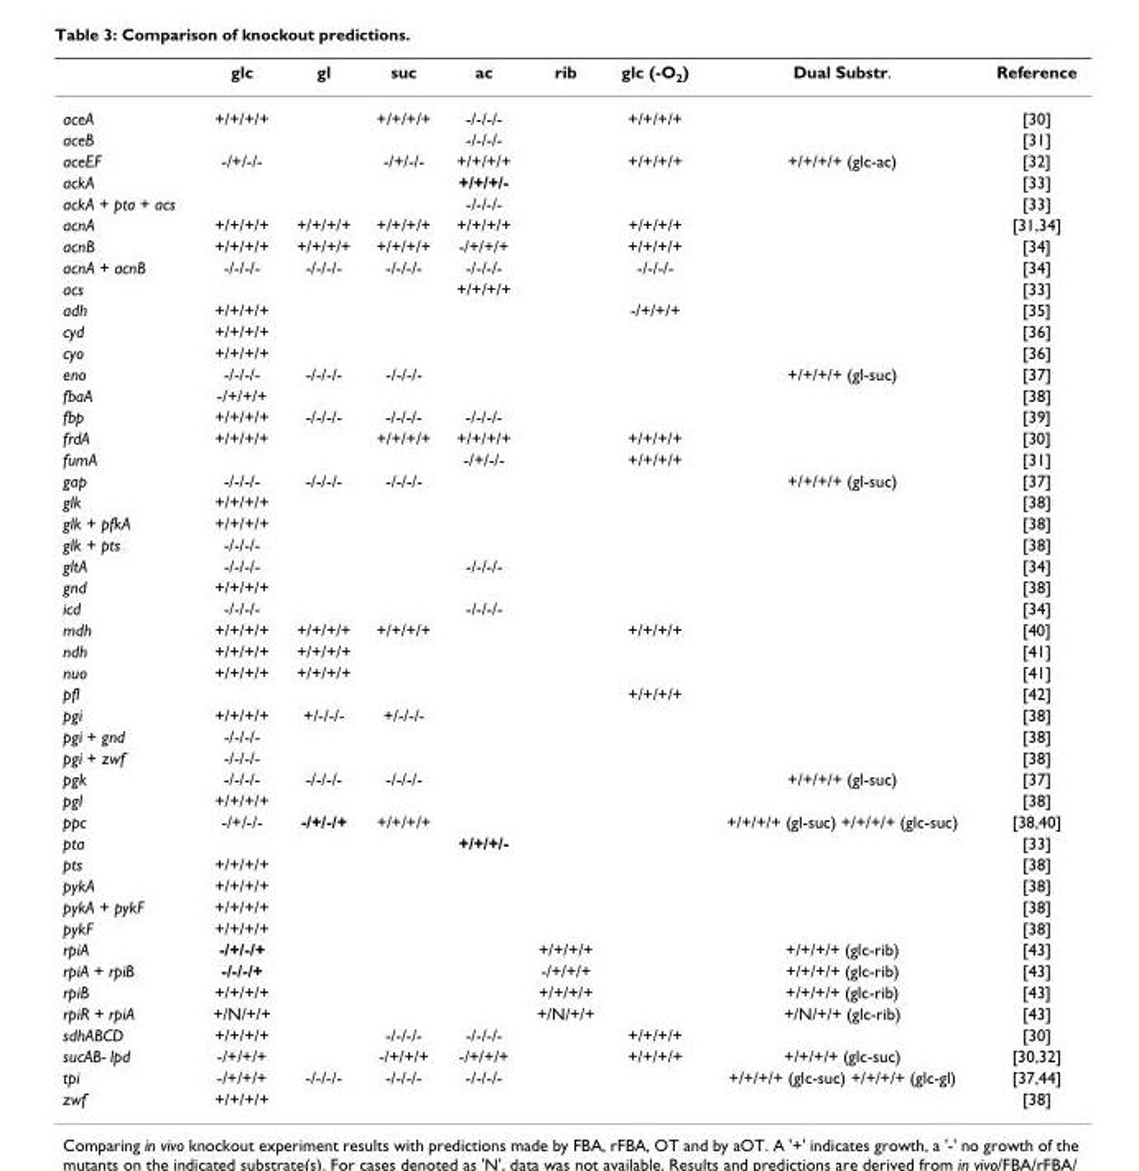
<table><thead><tr><td></td><td>glc</td><td>gl</td><td>suc</td><td>ac</td><td>rib</td><td>glc (-O<sub>2</sub>)</td><td>Dual Substr.</td><td>Reference</td></tr></thead><tbody><tr><td>aceA</td><td>+/+/+/+</td><td></td><td>+/+/+/+</td><td>-/-/-/-</td><td></td><td>+/+/+/+</td><td></td><td>[30]</td></tr><tr><td>aceB</td><td></td><td></td><td></td><td>-/-/-/-</td><td></td><td></td><td></td><td>[31]</td></tr><tr><td>aceEF</td><td>-/+/-/-</td><td></td><td>-/+/-/-</td><td>+/+/+/+</td><td></td><td>+/+/+/+</td><td>+/+/+/+ (glc-ac)</td><td>[32]</td></tr><tr><td>ackA</td><td></td><td></td><td></td><td>+/+/+/-</td><td></td><td></td><td></td><td>[33]</td></tr><tr><td>ackA + pta + acs</td><td></td><td></td><td></td><td>-/-/-/-</td><td></td><td></td><td></td><td>[33]</td></tr><tr><td>acnA</td><td>+/+/+/+</td><td>+/+/+/+</td><td>+/+/+/+</td><td>+/+/+/+</td><td></td><td>+/+/+/+</td><td></td><td>[31,34]</td></tr><tr><td>acnB</td><td>+/+/+/+</td><td>+/+/+/+</td><td>+/+/+/+</td><td>-/+/+/+</td><td></td><td>+/+/+/+</td><td></td><td>[34]</td></tr><tr><td>acnA + acnB</td><td>-/-/-/-</td><td>-/-/-/-</td><td>-/-/-/-</td><td>-/-/-/-</td><td></td><td>-/-/-/-</td><td></td><td>[34]</td></tr><tr><td>acs</td><td></td><td></td><td></td><td>+/+/+/+</td><td></td><td></td><td></td><td>[33]</td></tr><tr><td>adh</td><td>+/+/+/+</td><td></td><td></td><td></td><td></td><td>-/+/+/+</td><td></td><td>[35]</td></tr><tr><td>cyd</td><td>+/+/+/+</td><td></td><td></td><td></td><td></td><td></td><td></td><td>[36]</td></tr><tr><td>cyo</td><td>+/+/+/+</td><td></td><td></td><td></td><td></td><td></td><td></td><td>[36]</td></tr><tr><td>eno</td><td>-/-/-/-</td><td>-/-/-/-</td><td>-/-/-/-</td><td></td><td></td><td></td><td>+/+/+/+ (gl-suc)</td><td>[37]</td></tr><tr><td>fbaA</td><td>-/+/+/+</td><td></td><td></td><td></td><td></td><td></td><td></td><td>[38]</td></tr><tr><td>fbp</td><td>+/+/+/+</td><td>-/-/-/-</td><td>-/-/-/-</td><td>-/-/-/-</td><td></td><td></td><td></td><td>[39]</td></tr><tr><td>frdA</td><td>+/+/+/+</td><td></td><td>+/+/+/+</td><td>+/+/+/+</td><td></td><td>+/+/+/+</td><td></td><td>[30]</td></tr><tr><td>fumA</td><td></td><td></td><td></td><td>-/+/-/-</td><td></td><td>+/+/+/+</td><td></td><td>[31]</td></tr><tr><td>gap</td><td>-/-/-/-</td><td>-/-/-/-</td><td>-/-/-/-</td><td></td><td></td><td></td><td>+/+/+/+ (gl-suc)</td><td>[37]</td></tr><tr><td>glk</td><td>+/+/+/+</td><td></td><td></td><td></td><td></td><td></td><td></td><td>[38]</td></tr><tr><td>glk + pfkA</td><td>+/+/+/+</td><td></td><td></td><td></td><td></td><td></td><td></td><td>[38]</td></tr><tr><td>glk + pts</td><td>-/-/-/-</td><td></td><td></td><td></td><td></td><td></td><td></td><td>[38]</td></tr><tr><td>gltA</td><td>-/-/-/-</td><td></td><td></td><td>-/-/-/-</td><td></td><td></td><td></td><td>[34]</td></tr><tr><td>gnd</td><td>+/+/+/+</td><td></td><td></td><td></td><td></td><td></td><td></td><td>[38]</td></tr><tr><td>icd</td><td>-/-/-/-</td><td></td><td></td><td>-/-/-/-</td><td></td><td></td><td></td><td>[34]</td></tr><tr><td>mdh</td><td>+/+/+/+</td><td>+/+/+/+</td><td>+/+/+/+</td><td></td><td></td><td>+/+/+/+</td><td></td><td>[40]</td></tr><tr><td>ndh</td><td>+/+/+/+</td><td>+/+/+/+</td><td></td><td></td><td></td><td></td><td></td><td>[41]</td></tr><tr><td>nuo</td><td>+/+/+/+</td><td>+/+/+/+</td><td></td><td></td><td></td><td></td><td></td><td>[41]</td></tr><tr><td>pfl</td><td></td><td></td><td></td><td></td><td></td><td>+/+/+/+</td><td></td><td>[42]</td></tr><tr><td>pgi</td><td>+/+/+/+</td><td>+/-/-/-</td><td>+/-/-/-</td><td></td><td></td><td></td><td></td><td>[38]</td></tr><tr><td>pgi + gnd</td><td>-/-/-/-</td><td></td><td></td><td></td><td></td><td></td><td></td><td>[38]</td></tr><tr><td>pgi + zwf</td><td>-/-/-/-</td><td></td><td></td><td></td><td></td><td></td><td></td><td>[38]</td></tr><tr><td>pgk</td><td>-/-/-/-</td><td>-/-/-/-</td><td>-/-/-/-</td><td></td><td></td><td></td><td>+/+/+/+ (gl-suc)</td><td>[37]</td></tr><tr><td>pgl</td><td>+/+/+/+</td><td></td><td></td><td></td><td></td><td></td><td></td><td>[38]</td></tr><tr><td>ppc</td><td>-/+/-/-</td><td>-/+/-/+</td><td>+/+/+/+</td><td></td><td></td><td></td><td>+/+/+/+ (gl-suc) +/+/+/+ (glc-suc)</td><td>[38,40]</td></tr><tr><td>pta</td><td></td><td></td><td></td><td>+/+/+/-</td><td></td><td></td><td></td><td>[33]</td></tr><tr><td>pts</td><td>+/+/+/+</td><td></td><td></td><td></td><td></td><td></td><td></td><td>[38]</td></tr><tr><td>pykA</td><td>+/+/+/+</td><td></td><td></td><td></td><td></td><td></td><td></td><td>[38]</td></tr><tr><td>pykA + pykF</td><td>+/+/+/+</td><td></td><td></td><td></td><td></td><td></td><td></td><td>[38]</td></tr><tr><td>pykF</td><td>+/+/+/+</td><td></td><td></td><td></td><td></td><td></td><td></td><td>[38]</td></tr><tr><td>rpiA</td><td>-/+/-/+</td><td></td><td></td><td></td><td>+/+/+/+</td><td></td><td>+/+/+/+ (glc-rib)</td><td>[43]</td></tr><tr><td>rpiA + rpiB</td><td>-/-/-/+</td><td></td><td></td><td></td><td>-/+/+/+</td><td></td><td>+/+/+/+ (glc-rib)</td><td>[43]</td></tr><tr><td>rpiB</td><td>+/+/+/+</td><td></td><td></td><td></td><td>+/+/+/+</td><td></td><td>+/+/+/+ (glc-rib)</td><td>[43]</td></tr><tr><td>rpiR + rpiA</td><td>+/N/+/+</td><td></td><td></td><td></td><td>+/N/+/+</td><td></td><td>+/N/+/+ (glc-rib)</td><td>[43]</td></tr><tr><td>sdhABCD</td><td>+/+/+/+</td><td></td><td>-/-/-/-</td><td>-/-/-/-</td><td></td><td>+/+/+/+</td><td></td><td>[30]</td></tr><tr><td>sucAB- lpd</td><td>-/+/+/+</td><td></td><td>-/+/+/+</td><td>-/+/+/+</td><td></td><td>+/+/+/+</td><td>+/+/+/+ (glc-suc)</td><td>[30,32]</td></tr><tr><td>tpi</td><td>-/+/+/+</td><td>-/-/-/-</td><td>-/-/-/-</td><td>-/-/-/-</td><td></td><td></td><td>+/+/+/+ (glc-suc) +/+/+/+ (glc-gl)</td><td>[37,44]</td></tr><tr><td>zwf</td><td>+/+/+/+</td><td></td><td></td><td></td><td></td><td></td><td></td><td>[38]</td></tr></tbody></table>